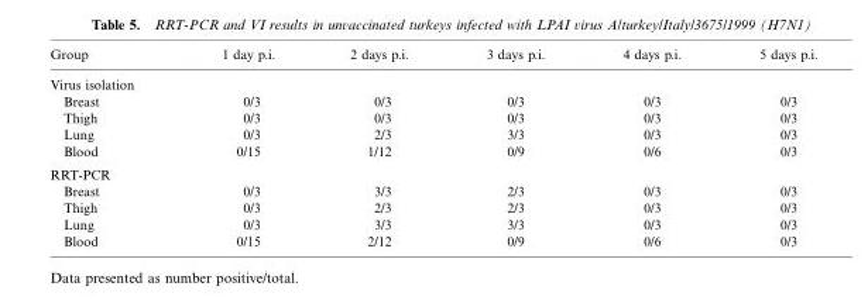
<table><thead><tr><td>Group</td><td>1 day p.i.</td><td>2 days p.i.</td><td>3 days p.i.</td><td>4 days p.i.</td><td>5 days p.i.</td></tr></thead><tbody><tr><td colspan="6">Virus isolation</td></tr><tr><td>Breast</td><td>0/3</td><td>0/3</td><td>0/3</td><td>0/3</td><td>0/3</td></tr><tr><td>Thigh</td><td>0/3</td><td>0/3</td><td>0/3</td><td>0/3</td><td>0/3</td></tr><tr><td>Lung</td><td>0/3</td><td>2/3</td><td>3/3</td><td>0/3</td><td>0/3</td></tr><tr><td>Blood</td><td>0/15</td><td>1/12</td><td>0/9</td><td>0/6</td><td>0/3</td></tr><tr><td colspan="6">RRT-PCR</td></tr><tr><td>Breast</td><td>0/3</td><td>3/3</td><td>2/3</td><td>0/3</td><td>0/3</td></tr><tr><td>Thigh</td><td>0/3</td><td>2/3</td><td>2/3</td><td>0/3</td><td>0/3</td></tr><tr><td>Lung</td><td>0/3</td><td>3/3</td><td>3/3</td><td>0/3</td><td>0/3</td></tr><tr><td>Blood</td><td>0/15</td><td>2/12</td><td>0/9</td><td>0/6</td><td>0/3</td></tr></tbody></table>